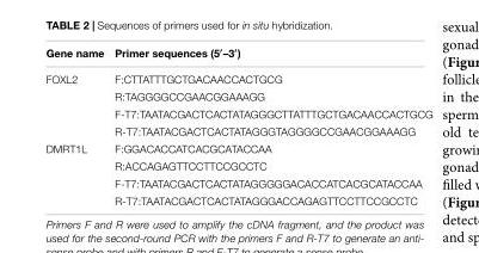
<table><thead><tr><td>Gene name</td><td>Primer sequences (5′–3′)</td></tr></thead><tbody><tr><td rowspan="4">FOXL2</td><td>F:CTTATTTGCTGACAACCACTGCG</td></tr><tr><td>R:TAGGGGCCGAACGGAAAGG</td></tr><tr><td>F-T7:TAATACGACTCACTATAGGGCTTATTTGCTGACAACCACTGCG</td></tr><tr><td>R-T7:TAATACGACTCACTATAGGGTAGGGGCCGAACGGAAAGG</td></tr><tr><td rowspan="4">DMRT1L</td><td>F:GGACACCATCACGCATACCAA</td></tr><tr><td>R:ACCAGAGTTCCTTCCGCCTC</td></tr><tr><td>F-T7:TAATACGACTCACTATAGGGGGACACCATCACGCATACCAA</td></tr><tr><td>R-T7:TAATACGACTCACTATAGGGACCAGAGTTCCTTCCGCCTC</td></tr></tbody></table>